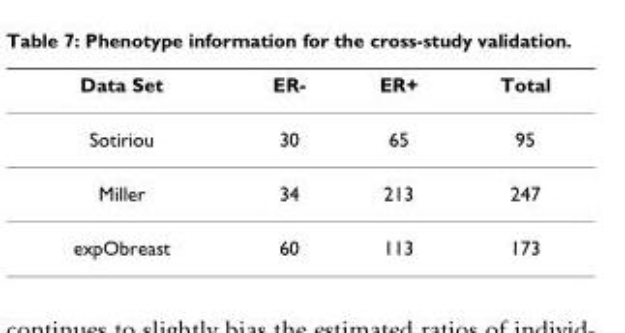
<table><thead><tr><td>Data Set</td><td>ER-</td><td>ER+</td><td>Total</td></tr></thead><tbody><tr><td>Sotiriou</td><td>30</td><td>65</td><td>95</td></tr><tr><td>Miller</td><td>34</td><td>213</td><td>247</td></tr><tr><td>expObreast</td><td>60</td><td>113</td><td>173</td></tr></tbody></table>